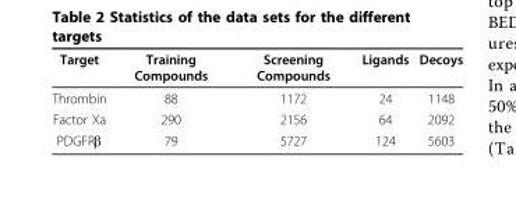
<table><thead><tr><td>Target</td><td>Training Compounds</td><td>Screening Compounds</td><td>Ligands</td><td>Decoys</td></tr></thead><tbody><tr><td>Thrombin</td><td>88</td><td>1172</td><td>24</td><td>1148</td></tr><tr><td>Factor Xa</td><td>290</td><td>2156</td><td>64</td><td>2092</td></tr><tr><td>PDGFRβ</td><td>79</td><td>5727</td><td>124</td><td>5603</td></tr></tbody></table>